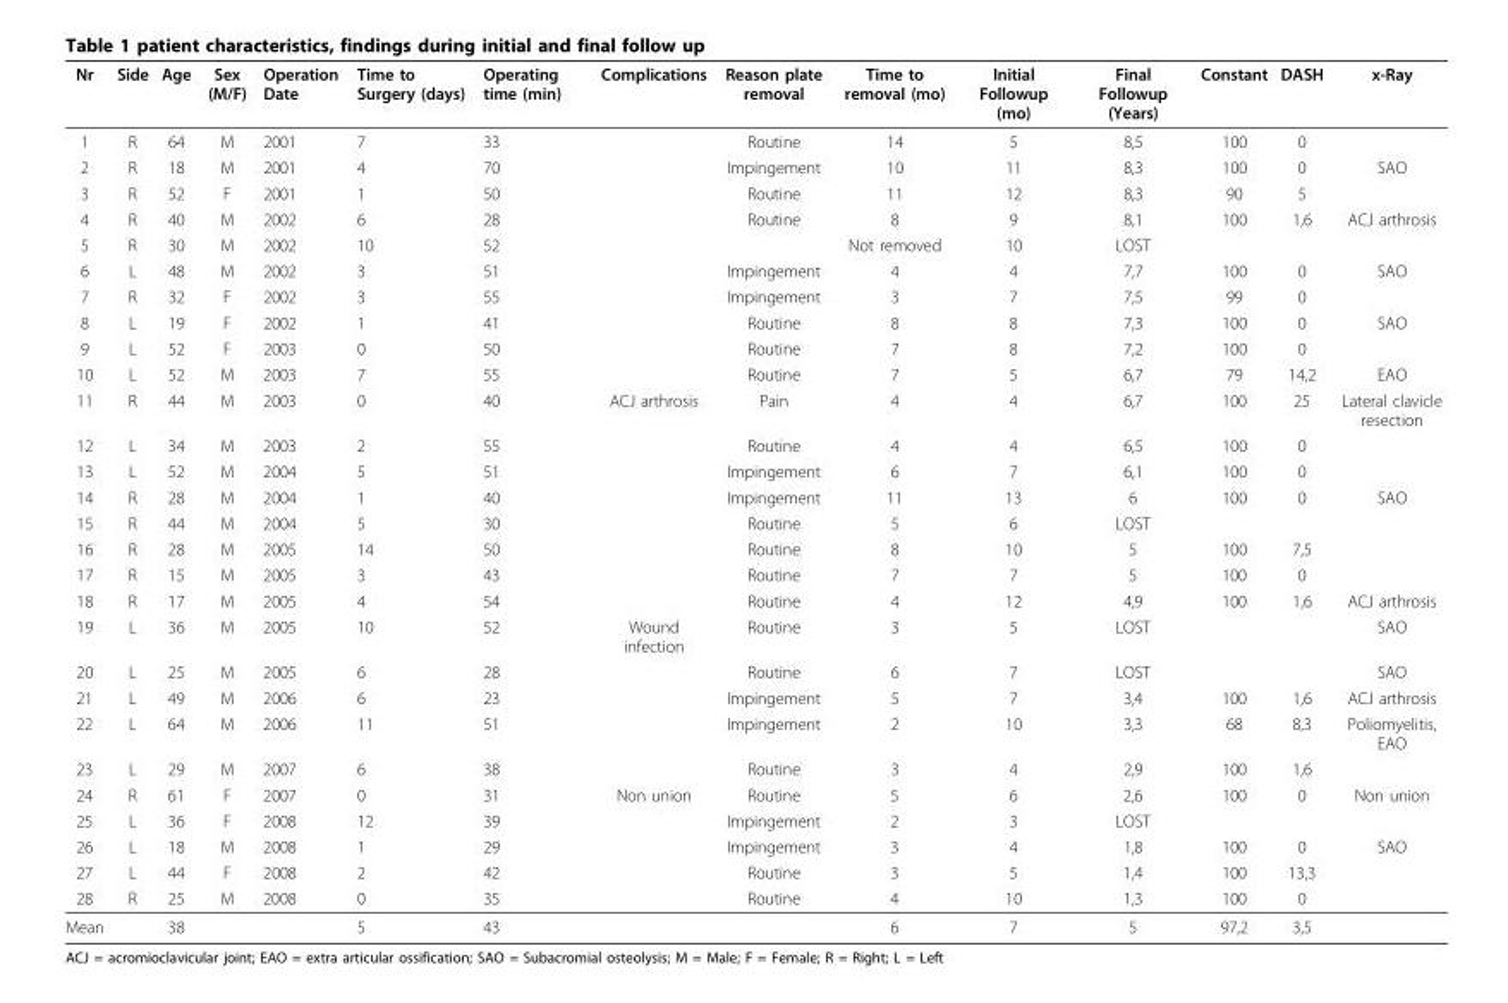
<table><thead><tr><td>Nr</td><td>Side</td><td>Age</td><td>Sex (M/F)</td><td>Operation Date</td><td>Time to Surgery (days)</td><td>Operating time (min)</td><td>Complications</td><td>Reason plate removal</td><td>Time to removal (mo)</td><td>Initial Followup (mo)</td><td>Final Followup (Years)</td><td>Constant</td><td>DASH</td><td>x-Ray</td></tr></thead><tbody><tr><td>1</td><td>R</td><td>64</td><td>M</td><td>2001</td><td>7</td><td>33</td><td></td><td>Routine</td><td>14</td><td>5</td><td>8,5</td><td>100</td><td>0</td><td></td></tr><tr><td>2</td><td>R</td><td>18</td><td>M</td><td>2001</td><td>4</td><td>70</td><td></td><td>Impingement</td><td>10</td><td>11</td><td>8,3</td><td>100</td><td>0</td><td>SAO</td></tr><tr><td>3</td><td>R</td><td>52</td><td>F</td><td>2001</td><td>1</td><td>50</td><td></td><td>Routine</td><td>11</td><td>12</td><td>8,3</td><td>90</td><td>5</td><td></td></tr><tr><td>4</td><td>R</td><td>40</td><td>M</td><td>2002</td><td>6</td><td>28</td><td></td><td>Routine</td><td>8</td><td>9</td><td>8,1</td><td>100</td><td>1,6</td><td>ACJ arthrosis</td></tr><tr><td>5</td><td>R</td><td>30</td><td>M</td><td>2002</td><td>10</td><td>52</td><td></td><td></td><td>Not removed</td><td>10</td><td>LOST</td><td></td><td></td><td></td></tr><tr><td>6</td><td>L</td><td>48</td><td>M</td><td>2002</td><td>3</td><td>51</td><td></td><td>Impingement</td><td>4</td><td>4</td><td>7,7</td><td>100</td><td>0</td><td>SAO</td></tr><tr><td>7</td><td>R</td><td>32</td><td>F</td><td>2002</td><td>3</td><td>55</td><td></td><td>Impingement</td><td>3</td><td>7</td><td>7,5</td><td>99</td><td>0</td><td></td></tr><tr><td>8</td><td>L</td><td>19</td><td>F</td><td>2002</td><td>1</td><td>41</td><td></td><td>Routine</td><td>8</td><td>8</td><td>7,3</td><td>100</td><td>0</td><td>SAO</td></tr><tr><td>9</td><td>L</td><td>52</td><td>F</td><td>2003</td><td>0</td><td>50</td><td></td><td>Routine</td><td>7</td><td>8</td><td>7,2</td><td>100</td><td>0</td><td></td></tr><tr><td>10</td><td>L</td><td>52</td><td>M</td><td>2003</td><td>7</td><td>55</td><td></td><td>Routine</td><td>7</td><td>5</td><td>6,7</td><td>79</td><td>14,2</td><td>EAO</td></tr><tr><td>11</td><td>R</td><td>44</td><td>M</td><td>2003</td><td>0</td><td>40</td><td>ACJ arthrosis</td><td>Pain</td><td>4</td><td>4</td><td>6,7</td><td>100</td><td>25</td><td>Lateral clavicle resection</td></tr><tr><td>12</td><td>L</td><td>34</td><td>M</td><td>2003</td><td>2</td><td>55</td><td></td><td>Routine</td><td>4</td><td>4</td><td>6,5</td><td>100</td><td>0</td><td></td></tr><tr><td>13</td><td>L</td><td>52</td><td>M</td><td>2004</td><td>5</td><td>51</td><td></td><td>Impingement</td><td>6</td><td>7</td><td>6,1</td><td>100</td><td>0</td><td></td></tr><tr><td>14</td><td>R</td><td>28</td><td>M</td><td>2004</td><td>1</td><td>40</td><td></td><td>Impingement</td><td>11</td><td>13</td><td>6</td><td>100</td><td>0</td><td>SAO</td></tr><tr><td>15</td><td>R</td><td>44</td><td>M</td><td>2004</td><td>5</td><td>30</td><td></td><td>Routine</td><td>5</td><td>6</td><td>LOST</td><td></td><td></td><td></td></tr><tr><td>16</td><td>R</td><td>28</td><td>M</td><td>2005</td><td>14</td><td>50</td><td></td><td>Routine</td><td>8</td><td>10</td><td>5</td><td>100</td><td>7,5</td><td></td></tr><tr><td>17</td><td>R</td><td>15</td><td>M</td><td>2005</td><td>3</td><td>43</td><td></td><td>Routine</td><td>7</td><td>7</td><td>5</td><td>100</td><td>0</td><td></td></tr><tr><td>18</td><td>R</td><td>17</td><td>M</td><td>2005</td><td>4</td><td>54</td><td></td><td>Routine</td><td>4</td><td>12</td><td>4,9</td><td>100</td><td>1,6</td><td>ACJ arthrosis</td></tr><tr><td>19</td><td>L</td><td>36</td><td>M</td><td>2005</td><td>10</td><td>52</td><td>Wound infection</td><td>Routine</td><td>3</td><td>5</td><td>LOST</td><td></td><td></td><td>SAO</td></tr><tr><td>20</td><td>L</td><td>25</td><td>M</td><td>2005</td><td>6</td><td>28</td><td></td><td>Routine</td><td>6</td><td>7</td><td>LOST</td><td></td><td></td><td>SAO</td></tr><tr><td>21</td><td>L</td><td>49</td><td>M</td><td>2006</td><td>6</td><td>23</td><td></td><td>Impingement</td><td>5</td><td>7</td><td>3,4</td><td>100</td><td>1,6</td><td>ACJ arthrosis</td></tr><tr><td>22</td><td>L</td><td>64</td><td>M</td><td>2006</td><td>11</td><td>51</td><td></td><td>Impingement</td><td>2</td><td>10</td><td>3,3</td><td>68</td><td>8,3</td><td>Poliomyelitis, EAO</td></tr><tr><td>23</td><td>L</td><td>29</td><td>M</td><td>2007</td><td>6</td><td>38</td><td></td><td>Routine</td><td>3</td><td>4</td><td>2,9</td><td>100</td><td>1,6</td><td></td></tr><tr><td>24</td><td>R</td><td>61</td><td>F</td><td>2007</td><td>0</td><td>31</td><td>Non union</td><td>Routine</td><td>5</td><td>6</td><td>2,6</td><td>100</td><td>0</td><td>Non union</td></tr><tr><td>25</td><td>L</td><td>36</td><td>F</td><td>2008</td><td>12</td><td>39</td><td></td><td>Impingement</td><td>2</td><td>3</td><td>LOST</td><td></td><td></td><td></td></tr><tr><td>26</td><td>L</td><td>18</td><td>M</td><td>2008</td><td>1</td><td>29</td><td></td><td>Impingement</td><td>3</td><td>4</td><td>1,8</td><td>100</td><td>0</td><td>SAO</td></tr><tr><td>27</td><td>L</td><td>44</td><td>F</td><td>2008</td><td>2</td><td>42</td><td></td><td>Routine</td><td>3</td><td>5</td><td>1,4</td><td>100</td><td>13,3</td><td></td></tr><tr><td>28</td><td>R</td><td>25</td><td>M</td><td>2008</td><td>0</td><td>35</td><td></td><td>Routine</td><td>4</td><td>10</td><td>1,3</td><td>100</td><td>0</td><td></td></tr><tr><td>Mean</td><td></td><td>38</td><td></td><td></td><td>5</td><td>43</td><td></td><td></td><td>6</td><td>7</td><td>5</td><td>97,2</td><td>3,5</td><td></td></tr></tbody></table>